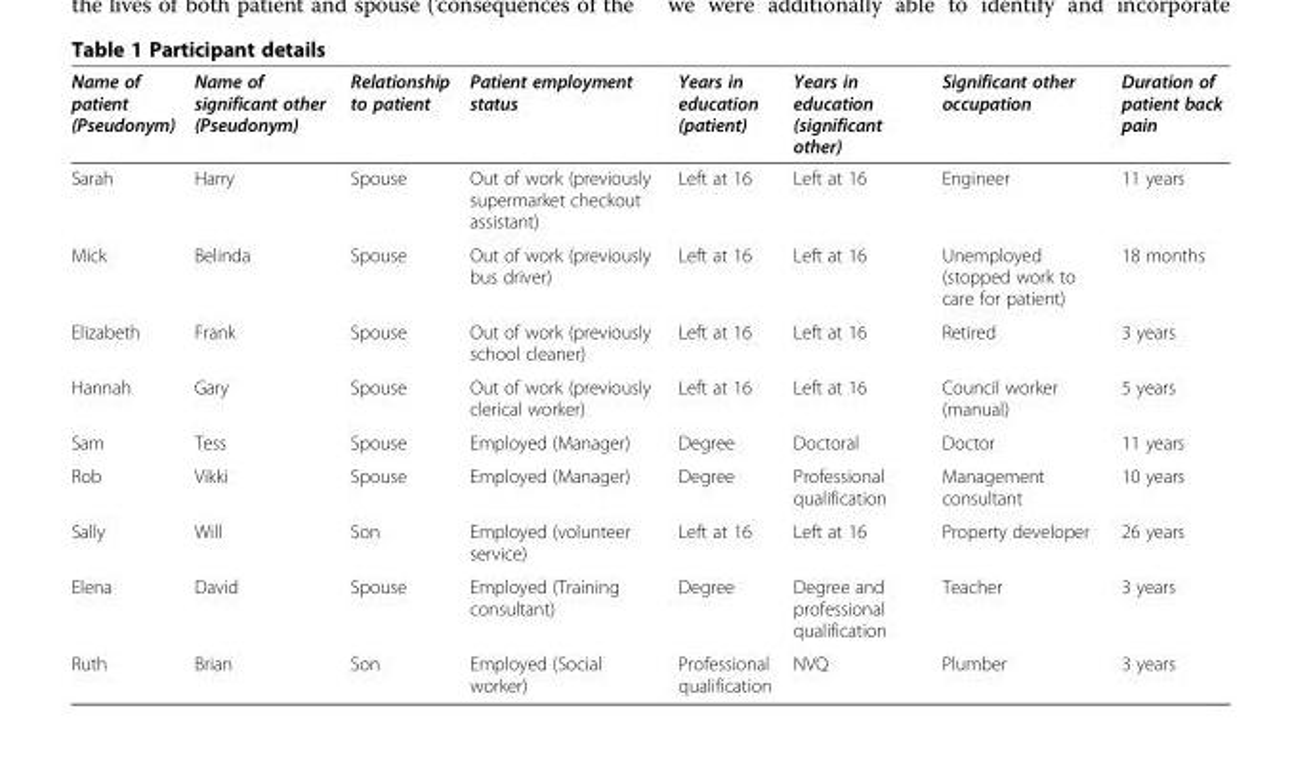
<table><thead><tr><td>Name of patient (Pseudonym)</td><td>Name of significant other (Pseudonym)</td><td>Relationship to patient</td><td>Patient employment status</td><td>Years in education (patient)</td><td>Years in education (significant other)</td><td>Significant other occupation</td><td>Duration of patient back pain</td></tr></thead><tbody><tr><td>Sarah</td><td>Harry</td><td>Spouse</td><td>Out of work (previously supermarket checkout assistant)</td><td>Left at 16</td><td>Left at 16</td><td>Engineer</td><td>11 years</td></tr><tr><td>Mick</td><td>Belinda</td><td>Spouse</td><td>Out of work (previously bus driver)</td><td>Left at 16</td><td>Left at 16</td><td>Unemployed (stopped work to care for patient)</td><td>18 months</td></tr><tr><td>Elizabeth</td><td>Frank</td><td>Spouse</td><td>Out of work (previously school cleaner)</td><td>Left at 16</td><td>Left at 16</td><td>Retired</td><td>3 years</td></tr><tr><td>Hannah</td><td>Gary</td><td>Spouse</td><td>Out of work (previously clerical worker)</td><td>Left at 16</td><td>Left at 16</td><td>Council worker (manual)</td><td>5 years</td></tr><tr><td>Sam</td><td>Tess</td><td>Spouse</td><td>Employed (Manager)</td><td>Degree</td><td>Doctoral</td><td>Doctor</td><td>11 years</td></tr><tr><td>Rob</td><td>Vikki</td><td>Spouse</td><td>Employed (Manager)</td><td>Degree</td><td>Professional qualification</td><td>Management consultant</td><td>10 years</td></tr><tr><td>Sally</td><td>Will</td><td>Son</td><td>Employed (volunteer service)</td><td>Left at 16</td><td>Left at 16</td><td>Property developer</td><td>26 years</td></tr><tr><td>Elena</td><td>David</td><td>Spouse</td><td>Employed (Training consultant)</td><td>Degree</td><td>Degree and professional qualification</td><td>Teacher</td><td>3 years</td></tr><tr><td>Ruth</td><td>Brian</td><td>Son</td><td>Employed (Social worker)</td><td>Professional qualification</td><td>NVQ</td><td>Plumber</td><td>3 years</td></tr></tbody></table>